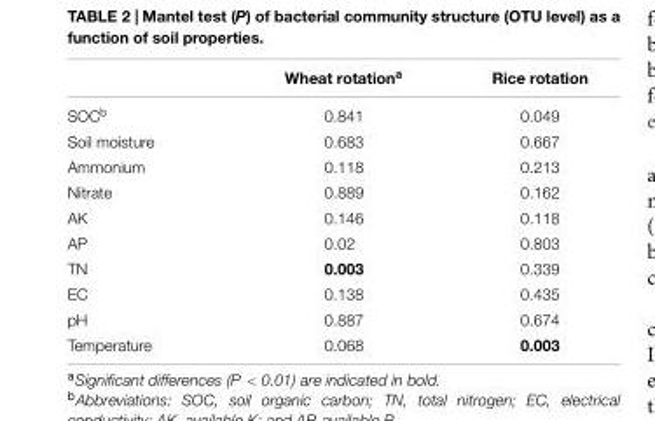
<table><thead><tr><td></td><td>Wheat rotation<sup>a</sup></td><td>Rice rotation</td></tr></thead><tbody><tr><td>SOC<sup>b</sup></td><td>0.841</td><td>0.049</td></tr><tr><td>Soil moisture</td><td>0.683</td><td>0.667</td></tr><tr><td>Ammonium</td><td>0.118</td><td>0.213</td></tr><tr><td>Nitrate</td><td>0.889</td><td>0.162</td></tr><tr><td>AK</td><td>0.146</td><td>0.118</td></tr><tr><td>AP</td><td>0.02</td><td>0.803</td></tr><tr><td>TN</td><td>0.003</td><td>0.339</td></tr><tr><td>EC</td><td>0.138</td><td>0.435</td></tr><tr><td>pH</td><td>0.887</td><td>0.674</td></tr><tr><td>Temperature</td><td>0.068</td><td>0.003</td></tr></tbody></table>